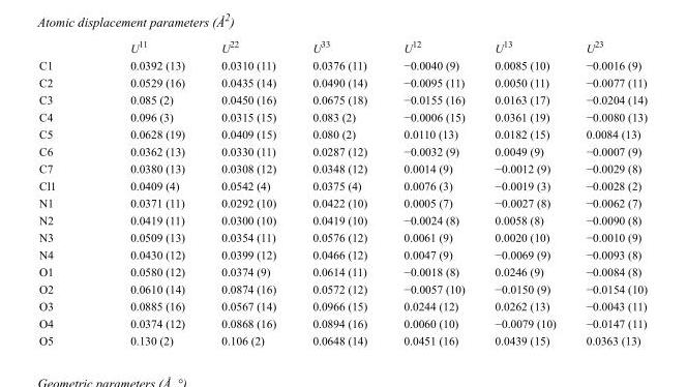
<table><thead><tr><td></td><td>U<sup>11</sup></td><td>U<sup>22</sup></td><td>U<sup>33</sup></td><td>U<sup>12</sup></td><td>U<sup>13</sup></td><td>U<sup>23</sup></td></tr></thead><tbody><tr><td>C1</td><td>0.0392 (13)</td><td>0.0310 (11)</td><td>0.0376 (11)</td><td>−0.0040 (9)</td><td>0.0085 (10)</td><td>−0.0016 (9)</td></tr><tr><td>C2</td><td>0.0529 (16)</td><td>0.0435 (14)</td><td>0.0490 (14)</td><td>−0.0095 (11)</td><td>0.0050 (11)</td><td>−0.0077 (11)</td></tr><tr><td>C3</td><td>0.085 (2)</td><td>0.0450 (16)</td><td>0.0675 (18)</td><td>−0.0155 (16)</td><td>0.0163 (17)</td><td>−0.0204 (14)</td></tr><tr><td>C4</td><td>0.096 (3)</td><td>0.0315 (15)</td><td>0.083 (2)</td><td>−0.0006 (15)</td><td>0.0361 (19)</td><td>−0.0080 (13)</td></tr><tr><td>C5</td><td>0.0628 (19)</td><td>0.0409 (15)</td><td>0.080 (2)</td><td>0.0110 (13)</td><td>0.0182 (15)</td><td>0.0084 (13)</td></tr><tr><td>C6</td><td>0.0362 (13)</td><td>0.0330 (11)</td><td>0.0287 (12)</td><td>−0.0032 (9)</td><td>0.0049 (9)</td><td>−0.0007 (9)</td></tr><tr><td>C7</td><td>0.0380 (13)</td><td>0.0308 (12)</td><td>0.0348 (12)</td><td>0.0014 (9)</td><td>−0.0012 (9)</td><td>−0.0029 (8)</td></tr><tr><td>Cl1</td><td>0.0409 (4)</td><td>0.0542 (4)</td><td>0.0375 (4)</td><td>0.0076 (3)</td><td>−0.0019 (3)</td><td>−0.0028 (2)</td></tr><tr><td>N1</td><td>0.0371 (11)</td><td>0.0292 (10)</td><td>0.0422 (10)</td><td>0.0005 (7)</td><td>−0.0027 (8)</td><td>−0.0062 (7)</td></tr><tr><td>N2</td><td>0.0419 (11)</td><td>0.0300 (10)</td><td>0.0419 (10)</td><td>−0.0024 (8)</td><td>0.0058 (8)</td><td>−0.0090 (8)</td></tr><tr><td>N3</td><td>0.0509 (13)</td><td>0.0354 (11)</td><td>0.0576 (12)</td><td>0.0061 (9)</td><td>0.0020 (10)</td><td>−0.0010 (9)</td></tr><tr><td>N4</td><td>0.0430 (12)</td><td>0.0399 (12)</td><td>0.0466 (12)</td><td>0.0047 (9)</td><td>−0.0069 (9)</td><td>−0.0093 (8)</td></tr><tr><td>O1</td><td>0.0580 (12)</td><td>0.0374 (9)</td><td>0.0614 (11)</td><td>−0.0018 (8)</td><td>0.0246 (9)</td><td>−0.0084 (8)</td></tr><tr><td>O2</td><td>0.0610 (14)</td><td>0.0874 (16)</td><td>0.0572 (12)</td><td>−0.0057 (10)</td><td>−0.0150 (9)</td><td>−0.0154 (10)</td></tr><tr><td>O3</td><td>0.0885 (16)</td><td>0.0567 (14)</td><td>0.0966 (15)</td><td>0.0244 (12)</td><td>0.0262 (13)</td><td>−0.0043 (11)</td></tr><tr><td>O4</td><td>0.0374 (12)</td><td>0.0868 (16)</td><td>0.0894 (16)</td><td>0.0060 (10)</td><td>−0.0079 (10)</td><td>−0.0147 (11)</td></tr><tr><td>O5</td><td>0.130 (2)</td><td>0.106 (2)</td><td>0.0648 (14)</td><td>0.0451 (16)</td><td>0.0439 (15)</td><td>0.0363 (13)</td></tr></tbody></table>